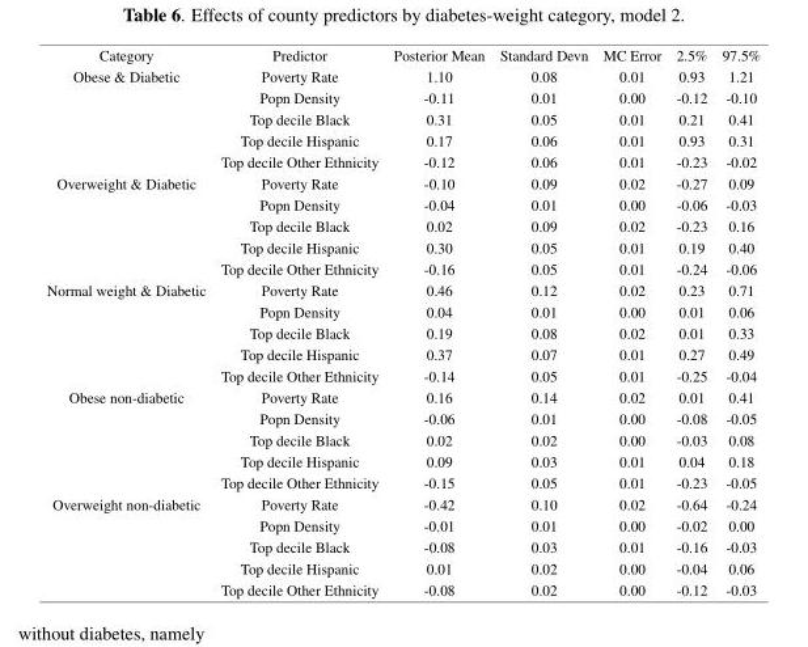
<table><thead><tr><td>Category</td><td>Predictor</td><td>Posterior Mean</td><td>Standard Devn</td><td>MC Error</td><td>2.5%</td><td>97.5%</td></tr></thead><tbody><tr><td rowspan="5">Obese &amp; Diabetic</td><td>Poverty Rate</td><td>1.10</td><td>0.08</td><td>0.01</td><td>0.93</td><td>1.21</td></tr><tr><td>Popn Density</td><td>-0.11</td><td>0.01</td><td>0.00</td><td>-0.12</td><td>-0.10</td></tr><tr><td>Top decile Black</td><td>0.31</td><td>0.05</td><td>0.01</td><td>0.21</td><td>0.41</td></tr><tr><td>Top decile Hispanic</td><td>0.17</td><td>0.06</td><td>0.01</td><td>0.93</td><td>0.31</td></tr><tr><td>Top decile Other Ethnicity</td><td>-0.12</td><td>0.06</td><td>0.01</td><td>-0.23</td><td>-0.02</td></tr><tr><td rowspan="5">Overweight &amp; Diabetic</td><td>Poverty Rate</td><td>-0.10</td><td>0.09</td><td>0.02</td><td>-0.27</td><td>0.09</td></tr><tr><td>Popn Density</td><td>-0.04</td><td>0.01</td><td>0.00</td><td>-0.06</td><td>-0.03</td></tr><tr><td>Top decile Black</td><td>0.02</td><td>0.09</td><td>0.02</td><td>-0.23</td><td>0.16</td></tr><tr><td>Top decile Hispanic</td><td>0.30</td><td>0.05</td><td>0.01</td><td>0.19</td><td>0.40</td></tr><tr><td>Top decile Other Ethnicity</td><td>-0.16</td><td>0.05</td><td>0.01</td><td>-0.24</td><td>-0.06</td></tr><tr><td rowspan="5">Normal weight &amp; Diabetic</td><td>Poverty Rate</td><td>0.46</td><td>0.12</td><td>0.02</td><td>0.23</td><td>0.71</td></tr><tr><td>Popn Density</td><td>0.04</td><td>0.01</td><td>0.00</td><td>0.01</td><td>0.06</td></tr><tr><td>Top decile Black</td><td>0.19</td><td>0.08</td><td>0.02</td><td>0.01</td><td>0.33</td></tr><tr><td>Top decile Hispanic</td><td>0.37</td><td>0.07</td><td>0.01</td><td>0.27</td><td>0.49</td></tr><tr><td>Top decile Other Ethnicity</td><td>-0.14</td><td>0.05</td><td>0.01</td><td>-0.25</td><td>-0.04</td></tr><tr><td rowspan="5">Obese non-diabetic</td><td>Poverty Rate</td><td>0.16</td><td>0.14</td><td>0.02</td><td>0.01</td><td>0.41</td></tr><tr><td>Popn Density</td><td>-0.06</td><td>0.01</td><td>0.00</td><td>-0.08</td><td>-0.05</td></tr><tr><td>Top decile Black</td><td>0.02</td><td>0.02</td><td>0.00</td><td>-0.03</td><td>0.08</td></tr><tr><td>Top decile Hispanic</td><td>0.09</td><td>0.03</td><td>0.01</td><td>0.04</td><td>0.18</td></tr><tr><td>Top decile Other Ethnicity</td><td>-0.15</td><td>0.05</td><td>0.01</td><td>-0.23</td><td>-0.05</td></tr><tr><td rowspan="5">Overweight non-diabetic</td><td>Poverty Rate</td><td>-0.42</td><td>0.10</td><td>0.02</td><td>-0.64</td><td>-0.24</td></tr><tr><td>Popn Density</td><td>-0.01</td><td>0.01</td><td>0.00</td><td>-0.02</td><td>0.00</td></tr><tr><td>Top decile Black</td><td>-0.08</td><td>0.03</td><td>0.01</td><td>-0.16</td><td>-0.03</td></tr><tr><td>Top decile Hispanic</td><td>0.01</td><td>0.02</td><td>0.00</td><td>-0.04</td><td>0.06</td></tr><tr><td>Top decile Other Ethnicity</td><td>-0.08</td><td>0.02</td><td>0.00</td><td>-0.12</td><td>-0.03</td></tr></tbody></table>